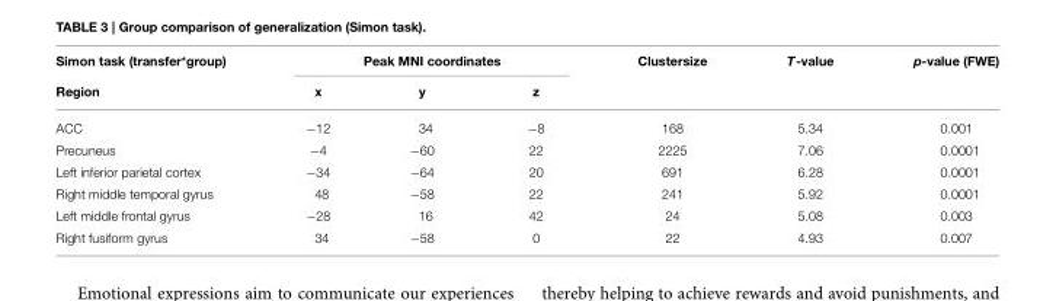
<table><thead><tr><td rowspan="2">Simon task (transfer*group) Region</td><td colspan="3">Peak MNI coordinates</td><td rowspan="2">Clustersize</td><td rowspan="2">T-value</td><td rowspan="2">p-value (FWE)</td></tr><tr><td>x</td><td>y</td><td>z</td></tr></thead><tbody><tr><td>ACC</td><td>−12</td><td>34</td><td>−8</td><td>168</td><td>5.34</td><td>0.001</td></tr><tr><td>Precuneus</td><td>−4</td><td>−60</td><td>22</td><td>2225</td><td>7.06</td><td>0.0001</td></tr><tr><td>Left inferior parietal cortex</td><td>−34</td><td>−64</td><td>20</td><td>691</td><td>6.28</td><td>0.0001</td></tr><tr><td>Right middle temporal gyrus</td><td>48</td><td>−58</td><td>22</td><td>241</td><td>5.92</td><td>0.0001</td></tr><tr><td>Left middle frontal gyrus</td><td>−28</td><td>16</td><td>42</td><td>24</td><td>5.08</td><td>0.003</td></tr><tr><td>Right fusiform gyrus</td><td>34</td><td>−58</td><td>0</td><td>22</td><td>4.93</td><td>0.007</td></tr></tbody></table>